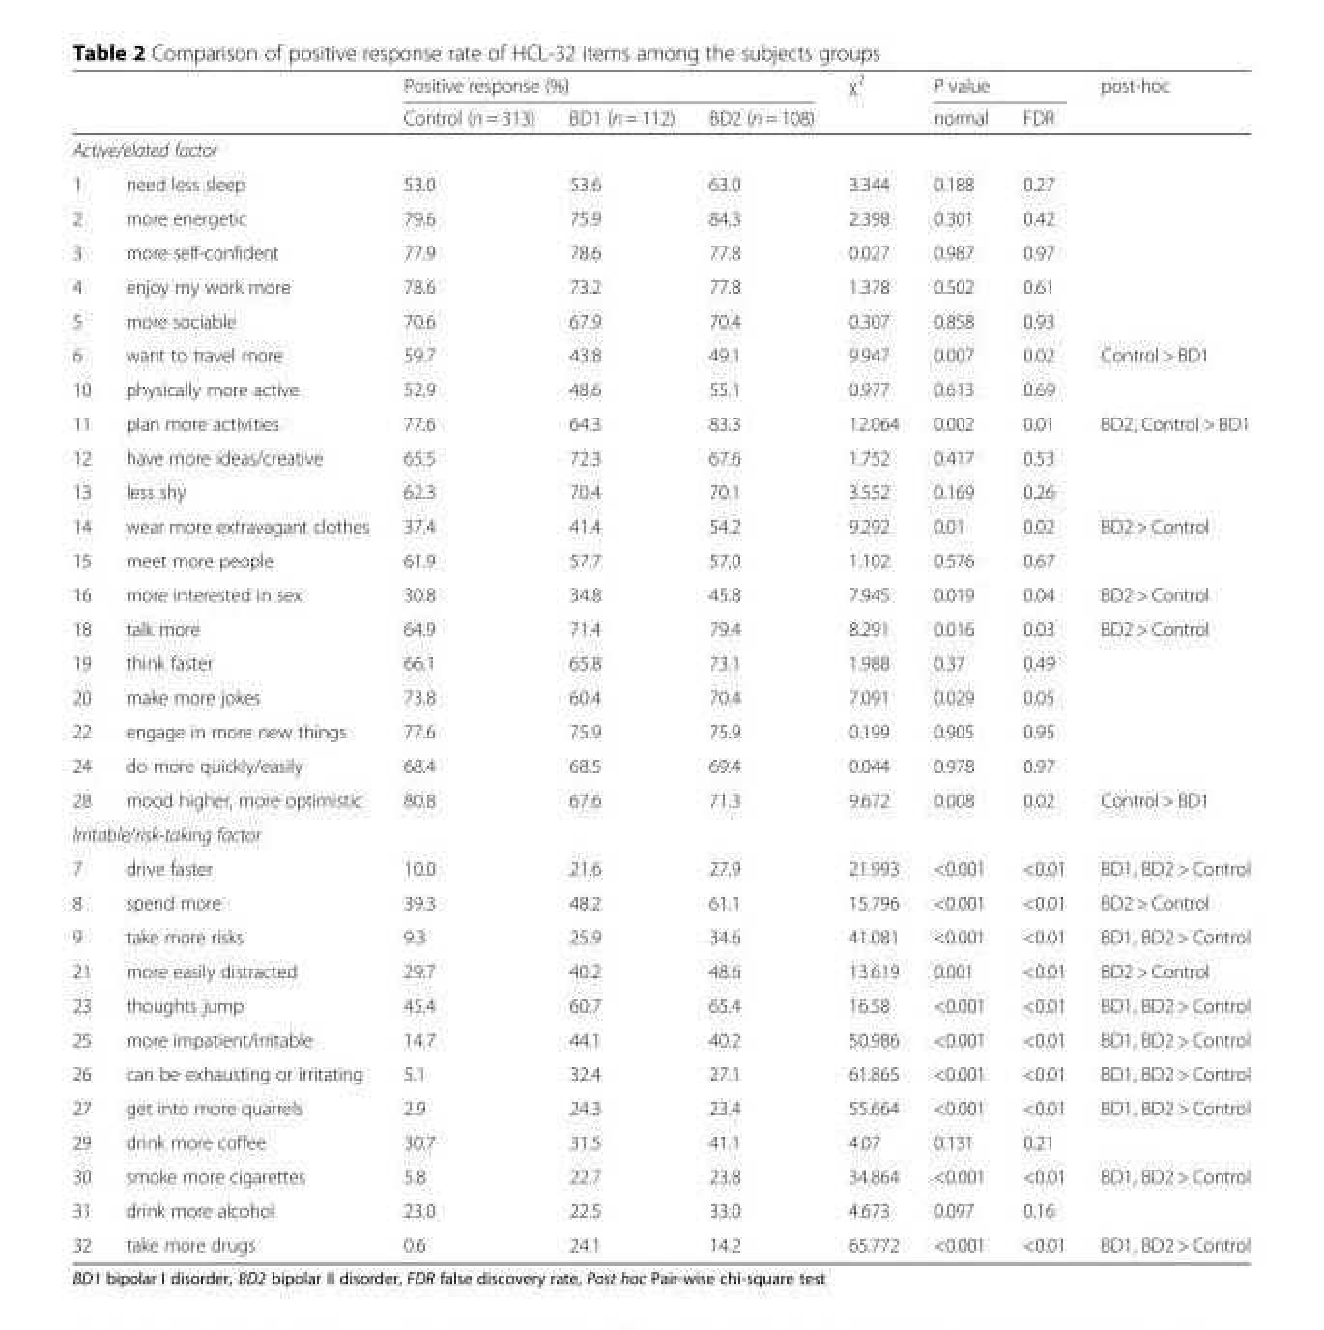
<table><thead><tr><td rowspan="2"></td><td rowspan="2"></td><td colspan="3">Positive response (%)</td><td rowspan="2">χ<sup>2</sup></td><td colspan="2">P value</td><td rowspan="2">post-hoc</td></tr><tr><td>Control (n = 313)</td><td>BD1 (n = 112)</td><td>BD2 (n = 108)</td><td>normal</td><td>FDR</td></tr></thead><tbody><tr><td colspan="9">Active/elated factor</td></tr><tr><td>1</td><td>need less sleep</td><td>53.0</td><td>53.6</td><td>63.0</td><td>3.344</td><td>0.188</td><td>0.27</td><td></td></tr><tr><td>2</td><td>more energetic</td><td>79.6</td><td>75.9</td><td>84.3</td><td>2.398</td><td>0.301</td><td>0.42</td><td></td></tr><tr><td>3</td><td>more self-confident</td><td>77.9</td><td>78.6</td><td>77.8</td><td>0.027</td><td>0.987</td><td>0.97</td><td></td></tr><tr><td>4</td><td>enjoy my work more</td><td>78.6</td><td>73.2</td><td>77.8</td><td>1.378</td><td>0.502</td><td>0.61</td><td></td></tr><tr><td>5</td><td>more sociable</td><td>70.6</td><td>67.9</td><td>70.4</td><td>0.307</td><td>0.858</td><td>0.93</td><td></td></tr><tr><td>6</td><td>want to travel more</td><td>59.7</td><td>43.8</td><td>49.1</td><td>9.947</td><td>0.007</td><td>0.02</td><td>Control &gt; BD1</td></tr><tr><td>10</td><td>physically more active</td><td>52.9</td><td>48.6</td><td>55.1</td><td>0.977</td><td>0.613</td><td>0.69</td><td></td></tr><tr><td>11</td><td>plan more activities</td><td>77.6</td><td>64.3</td><td>83.3</td><td>12.064</td><td>0.002</td><td>0.01</td><td>BD2, Control &gt; BD1</td></tr><tr><td>12</td><td>have more ideas/creative</td><td>65.5</td><td>72.3</td><td>67.6</td><td>1.752</td><td>0.417</td><td>0.53</td><td></td></tr><tr><td>13</td><td>less shy</td><td>62.3</td><td>70.4</td><td>70.1</td><td>3.552</td><td>0.169</td><td>0.26</td><td></td></tr><tr><td>14</td><td>wear more extravagant clothes</td><td>37.4</td><td>41.4</td><td>54.2</td><td>9.292</td><td>0.01</td><td>0.02</td><td>BD2 &gt; Control</td></tr><tr><td>15</td><td>meet more people</td><td>61.9</td><td>57.7</td><td>57.0</td><td>1.102</td><td>0.576</td><td>0.67</td><td></td></tr><tr><td>16</td><td>more interested in sex</td><td>30.8</td><td>34.8</td><td>45.8</td><td>7.945</td><td>0.019</td><td>0.04</td><td>BD2 &gt; Control</td></tr><tr><td>18</td><td>talk more</td><td>64.9</td><td>71.4</td><td>79.4</td><td>8.291</td><td>0.016</td><td>0.03</td><td>BD2 &gt; Control</td></tr><tr><td>19</td><td>think faster</td><td>66.1</td><td>65.8</td><td>73.1</td><td>1.988</td><td>0.37</td><td>0.49</td><td></td></tr><tr><td>20</td><td>make more jokes</td><td>73.8</td><td>60.4</td><td>70.4</td><td>7.091</td><td>0.029</td><td>0.05</td><td></td></tr><tr><td>22</td><td>engage in more new things</td><td>77.6</td><td>75.9</td><td>75.9</td><td>0.199</td><td>0.905</td><td>0.95</td><td></td></tr><tr><td>24</td><td>do more quickly/easily</td><td>68.4</td><td>68.5</td><td>69.4</td><td>0.044</td><td>0.978</td><td>0.97</td><td></td></tr><tr><td>28</td><td>mood higher, more optimistic</td><td>80.8</td><td>67.6</td><td>71.3</td><td>9.672</td><td>0.008</td><td>0.02</td><td>Control &gt; BD1</td></tr><tr><td colspan="9">Irritable/risk-taking factor</td></tr><tr><td>7</td><td>drive faster</td><td>10.0</td><td>21.6</td><td>27.9</td><td>21.993</td><td>&lt;0.001</td><td>&lt;0.01</td><td>BD1, BD2 &gt; Control</td></tr><tr><td>8</td><td>spend more</td><td>39.3</td><td>48.2</td><td>61.1</td><td>15.796</td><td>&lt;0.001</td><td>&lt;0.01</td><td>BD2 &gt; Control</td></tr><tr><td>9</td><td>take more risks</td><td>9.3</td><td>25.9</td><td>34.6</td><td>41.081</td><td>&lt;0.001</td><td>&lt;0.01</td><td>BD1, BD2 &gt; Control</td></tr><tr><td>21</td><td>more easily distracted</td><td>29.7</td><td>40.2</td><td>48.6</td><td>13.619</td><td>0.001</td><td>&lt;0.01</td><td>BD2 &gt; Control</td></tr><tr><td>23</td><td>thoughts jump</td><td>45.4</td><td>60.7</td><td>65.4</td><td>16.58</td><td>&lt;0.001</td><td>&lt;0.01</td><td>BD1, BD2 &gt; Control</td></tr><tr><td>25</td><td>more impatient/irritable</td><td>14.7</td><td>44.1</td><td>40.2</td><td>50.986</td><td>&lt;0.001</td><td>&lt;0.01</td><td>BD1, BD2 &gt; Control</td></tr><tr><td>26</td><td>can be exhausting or irritating</td><td>5.1</td><td>32.4</td><td>27.1</td><td>61.865</td><td>&lt;0.001</td><td>&lt;0.01</td><td>BD1, BD2 &gt; Control</td></tr><tr><td>27</td><td>get into more quarrels</td><td>2.9</td><td>24.3</td><td>23.4</td><td>55.664</td><td>&lt;0.001</td><td>&lt;0.01</td><td>BD1, BD2 &gt; Control</td></tr><tr><td>29</td><td>drink more coffee</td><td>30.7</td><td>31.5</td><td>41.1</td><td>4.07</td><td>0.131</td><td>0.21</td><td></td></tr><tr><td>30</td><td>smoke more cigarettes</td><td>5.8</td><td>22.7</td><td>23.8</td><td>34.864</td><td>&lt;0.001</td><td>&lt;0.01</td><td>BD1, BD2 &gt; Control</td></tr><tr><td>31</td><td>drink more alcohol</td><td>23.0</td><td>22.5</td><td>33.0</td><td>4.673</td><td>0.097</td><td>0.16</td><td></td></tr><tr><td>32</td><td>take more drugs</td><td>0.6</td><td>24.1</td><td>14.2</td><td>65.772</td><td>&lt;0.001</td><td>&lt;0.01</td><td>BD1, BD2 &gt; Control</td></tr></tbody></table>